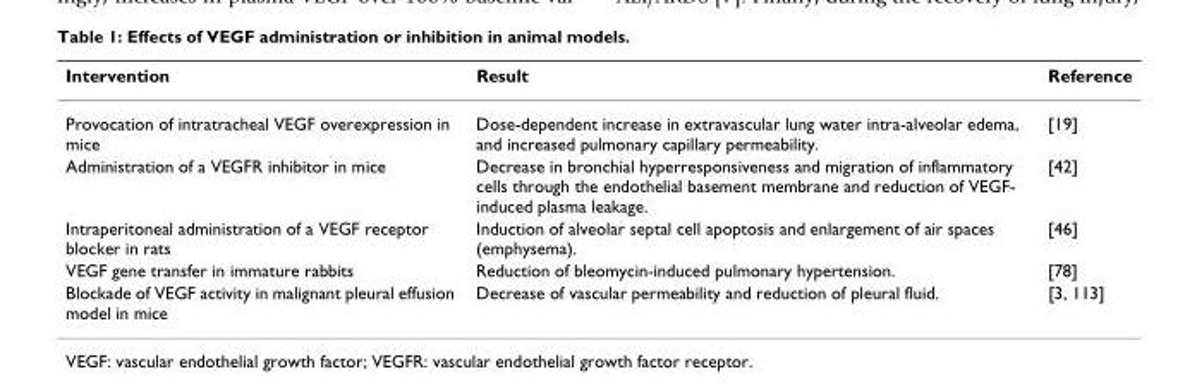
<table><thead><tr><td>Intervention</td><td>Result</td><td>Reference</td></tr></thead><tbody><tr><td>Provocation of intratracheal VEGF overexpression in mice</td><td>Dose-dependent increase in extravascular lung water intra-alveolar edema, and increased pulmonary capillary permeability.</td><td>[19]</td></tr><tr><td>Administration of a VEGFR inhibitor in mice</td><td>Decrease in bronchial hyperresponsiveness and migration of inflammatory cells through the endothelial basement membrane and reduction of VEGF- induced plasma leakage.</td><td>[42]</td></tr><tr><td>Intraperitoneal administration of a VEGF receptor blocker in rats</td><td>Induction of alveolar septal cell apoptosis and enlargement of air spaces (emphysema).</td><td>[46]</td></tr><tr><td>VEGF gene transfer in immature rabbits</td><td>Reduction of bleomycin-induced pulmonary hypertension.</td><td>[78]</td></tr><tr><td>Blockade of VEGF activity in malignant pleural effusion model in mice</td><td>Decrease of vascular permeability and reduction of pleural fluid.</td><td>[3, 113]</td></tr></tbody></table>